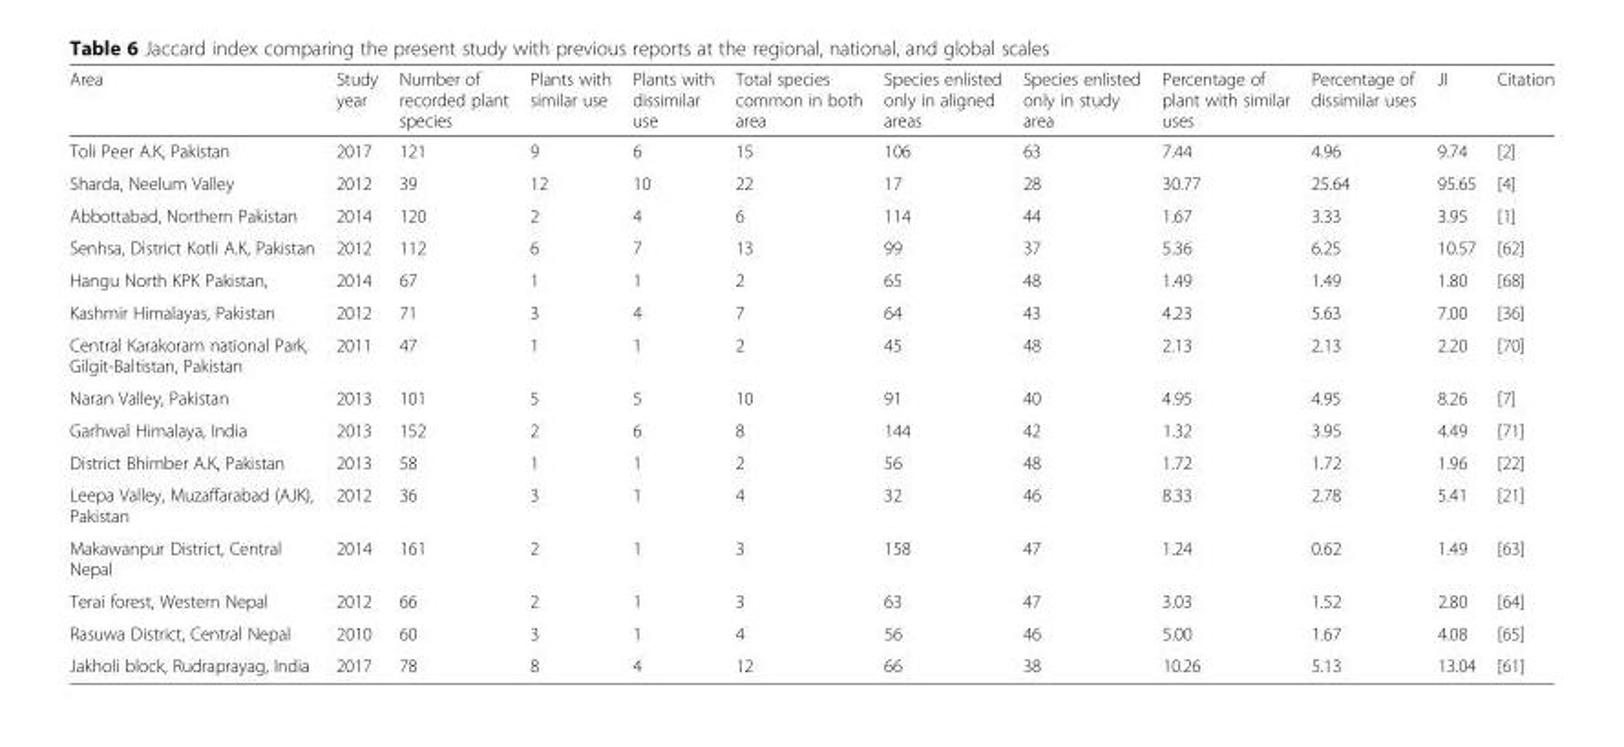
<table><thead><tr><td>Area</td><td>Study year</td><td>Number of recorded plant species</td><td>Plants with similar use</td><td>Plants with dissimilar use</td><td>Total species common in both area</td><td>Species enlisted only in aligned areas</td><td>Species enlisted only in study area</td><td>Percentage of plant with similar uses</td><td>Percentage of dissimilar uses</td><td>JI</td><td>Citation</td></tr></thead><tbody><tr><td>Toli Peer A.K, Pakistan</td><td>2017</td><td>121</td><td>9</td><td>6</td><td>15</td><td>106</td><td>63</td><td>7.44</td><td>4.96</td><td>9.74</td><td>[2]</td></tr><tr><td>Sharda, Neelum Valley</td><td>2012</td><td>39</td><td>12</td><td>10</td><td>22</td><td>17</td><td>28</td><td>30.77</td><td>25.64</td><td>95.65</td><td>[4]</td></tr><tr><td>Abbottabad, Northern Pakistan</td><td>2014</td><td>120</td><td>2</td><td>4</td><td>6</td><td>114</td><td>44</td><td>1.67</td><td>3.33</td><td>3.95</td><td>[1]</td></tr><tr><td>Senhsa, District Kotli A.K, Pakistan</td><td>2012</td><td>112</td><td>6</td><td>7</td><td>13</td><td>99</td><td>37</td><td>5.36</td><td>6.25</td><td>10.57</td><td>[62]</td></tr><tr><td>Hangu North KPK Pakistan,</td><td>2014</td><td>67</td><td>1</td><td>1</td><td>2</td><td>65</td><td>48</td><td>1.49</td><td>1.49</td><td>1.80</td><td>[68]</td></tr><tr><td>Kashmir Himalayas, Pakistan</td><td>2012</td><td>71</td><td>3</td><td>4</td><td>7</td><td>64</td><td>43</td><td>4.23</td><td>5.63</td><td>7.00</td><td>[36]</td></tr><tr><td>Central Karakoram national Park, Gilgit-Baltistan, Pakistan</td><td>2011</td><td>47</td><td>1</td><td>1</td><td>2</td><td>45</td><td>48</td><td>2.13</td><td>2.13</td><td>2.20</td><td>[70]</td></tr><tr><td>Naran Valley, Pakistan</td><td>2013</td><td>101</td><td>5</td><td>5</td><td>10</td><td>91</td><td>40</td><td>4.95</td><td>4.95</td><td>8.26</td><td>[7]</td></tr><tr><td>Garhwal Himalaya, India</td><td>2013</td><td>152</td><td>2</td><td>6</td><td>8</td><td>144</td><td>42</td><td>1.32</td><td>3.95</td><td>4.49</td><td>[71]</td></tr><tr><td>District Bhimber A.K, Pakistan</td><td>2013</td><td>58</td><td>1</td><td>1</td><td>2</td><td>56</td><td>48</td><td>1.72</td><td>1.72</td><td>1.96</td><td>[22]</td></tr><tr><td>Leepa Valley, Muzaffarabad (AJK), Pakistan</td><td>2012</td><td>36</td><td>3</td><td>1</td><td>4</td><td>32</td><td>46</td><td>8.33</td><td>2.78</td><td>5.41</td><td>[21]</td></tr><tr><td>Makawanpur District, Central Nepal</td><td>2014</td><td>161</td><td>2</td><td>1</td><td>3</td><td>158</td><td>47</td><td>1.24</td><td>0.62</td><td>1.49</td><td>[63]</td></tr><tr><td>Terai forest, Western Nepal</td><td>2012</td><td>66</td><td>2</td><td>1</td><td>3</td><td>63</td><td>47</td><td>3.03</td><td>1.52</td><td>2.80</td><td>[64]</td></tr><tr><td>Rasuwa District, Central Nepal</td><td>2010</td><td>60</td><td>3</td><td>1</td><td>4</td><td>56</td><td>46</td><td>5.00</td><td>1.67</td><td>4.08</td><td>[65]</td></tr><tr><td>Jakholi block, Rudraprayag, India</td><td>2017</td><td>78</td><td>8</td><td>4</td><td>12</td><td>66</td><td>38</td><td>10.26</td><td>5.13</td><td>13.04</td><td>[61]</td></tr></tbody></table>